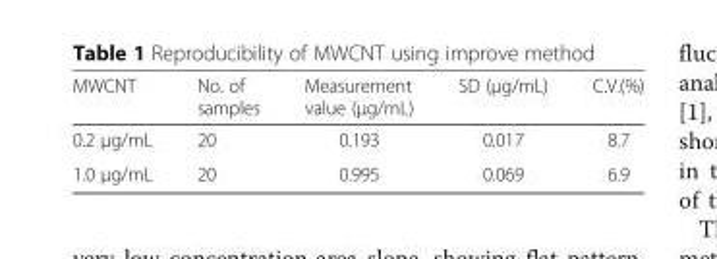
<table><thead><tr><td>MWCNT</td><td>No. of samples</td><td>Measurement value (μg/mL)</td><td>SD (μg/mL)</td><td>C.V.(%)</td></tr></thead><tbody><tr><td>0.2 μg/mL</td><td>20</td><td>0.193</td><td>0.017</td><td>8.7</td></tr><tr><td>1.0 μg/mL</td><td>20</td><td>0.995</td><td>0.069</td><td>6.9</td></tr></tbody></table>